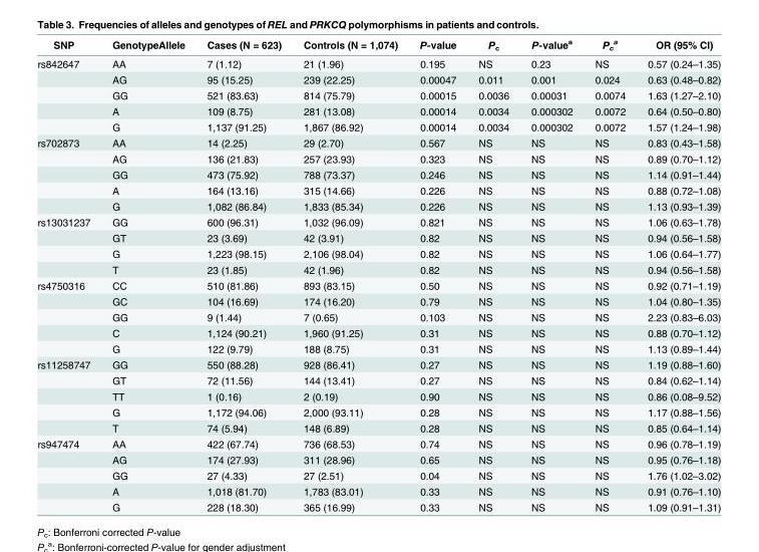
<table><thead><tr><td>SNP</td><td>GenotypeAllele</td><td>Cases (N = 623)</td><td>Controls (N = 1,074)</td><td>P-value</td><td>P<sub>c</sub></td><td>P-value<sup>a</sup></td><td>P<sub>c</sub> <sup>a</sup></td><td>OR (95% CI)</td></tr></thead><tbody><tr><td rowspan="5">rs842647</td><td>AA</td><td>7 (1.12)</td><td>21 (1.96)</td><td>0.195</td><td>NS</td><td>0.23</td><td>NS</td><td>0.57 (0.24–1.35)</td></tr><tr><td>AG</td><td>95 (15.25)</td><td>239 (22.25)</td><td>0.00047</td><td>0.011</td><td>0.001</td><td>0.024</td><td>0.63 (0.48–0.82)</td></tr><tr><td>GG</td><td>521 (83.63)</td><td>814 (75.79)</td><td>0.00015</td><td>0.0036</td><td>0.00031</td><td>0.0074</td><td>1.63 (1.27–2.10)</td></tr><tr><td>A</td><td>109 (8.75)</td><td>281 (13.08)</td><td>0.00014</td><td>0.0034</td><td>0.000302</td><td>0.0072</td><td>0.64 (0.50–0.80)</td></tr><tr><td>G</td><td>1,137 (91.25)</td><td>1,867 (86.92)</td><td>0.00014</td><td>0.0034</td><td>0.000302</td><td>0.0072</td><td>1.57 (1.24–1.98)</td></tr><tr><td rowspan="5">rs702873</td><td>AA</td><td>14 (2.25)</td><td>29 (2.70)</td><td>0.567</td><td>NS</td><td>NS</td><td>NS</td><td>0.83 (0.43–1.58)</td></tr><tr><td>AG</td><td>136 (21.83)</td><td>257 (23.93)</td><td>0.323</td><td>NS</td><td>NS</td><td>NS</td><td>0.89 (0.70–1.12)</td></tr><tr><td>GG</td><td>473 (75.92)</td><td>788 (73.37)</td><td>0.246</td><td>NS</td><td>NS</td><td>NS</td><td>1.14 (0.91–1.44)</td></tr><tr><td>A</td><td>164 (13.16)</td><td>315 (14.66)</td><td>0.226</td><td>NS</td><td>NS</td><td>NS</td><td>0.88 (0.72–1.08)</td></tr><tr><td>G</td><td>1,082 (86.84)</td><td>1,833 (85.34)</td><td>0.226</td><td>NS</td><td>NS</td><td>NS</td><td>1.13 (0.93–1.39)</td></tr><tr><td rowspan="4">rs13031237</td><td>GG</td><td>600 (96.31)</td><td>1,032 (96.09)</td><td>0.821</td><td>NS</td><td>NS</td><td>NS</td><td>1.06 (0.63–1.78)</td></tr><tr><td>GT</td><td>23 (3.69)</td><td>42 (3.91)</td><td>0.82</td><td>NS</td><td>NS</td><td>NS</td><td>0.94 (0.56–1.58)</td></tr><tr><td>G</td><td>1,223 (98.15)</td><td>2,106 (98.04)</td><td>0.82</td><td>NS</td><td>NS</td><td>NS</td><td>1.06 (0.64–1.77)</td></tr><tr><td>T</td><td>23 (1.85)</td><td>42 (1.96)</td><td>0.82</td><td>NS</td><td>NS</td><td>NS</td><td>0.94 (0.56–1.58)</td></tr><tr><td rowspan="5">rs4750316</td><td>CC</td><td>510 (81.86)</td><td>893 (83.15)</td><td>0.50</td><td>NS</td><td>NS</td><td>NS</td><td>0.92 (0.71–1.19)</td></tr><tr><td>GC</td><td>104 (16.69)</td><td>174 (16.20)</td><td>0.79</td><td>NS</td><td>NS</td><td>NS</td><td>1.04 (0.80–1.35)</td></tr><tr><td>GG</td><td>9 (1.44)</td><td>7 (0.65)</td><td>0.103</td><td>NS</td><td>NS</td><td>NS</td><td>2.23 (0.83–6.03)</td></tr><tr><td>C</td><td>1,124 (90.21)</td><td>1,960 (91.25)</td><td>0.31</td><td>NS</td><td>NS</td><td>NS</td><td>0.88 (0.70–1.12)</td></tr><tr><td>G</td><td>122 (9.79)</td><td>188 (8.75)</td><td>0.31</td><td>NS</td><td>NS</td><td>NS</td><td>1.13 (0.89–1.44)</td></tr><tr><td rowspan="5">rs11258747</td><td>GG</td><td>550 (88.28)</td><td>928 (86.41)</td><td>0.27</td><td>NS</td><td>NS</td><td>NS</td><td>1.19 (0.88–1.60)</td></tr><tr><td>GT</td><td>72 (11.56)</td><td>144 (13.41)</td><td>0.27</td><td>NS</td><td>NS</td><td>NS</td><td>0.84 (0.62–1.14)</td></tr><tr><td>TT</td><td>1 (0.16)</td><td>2 (0.19)</td><td>0.90</td><td>NS</td><td>NS</td><td>NS</td><td>0.86 (0.08–9.52)</td></tr><tr><td>G</td><td>1,172 (94.06)</td><td>2,000 (93.11)</td><td>0.28</td><td>NS</td><td>NS</td><td>NS</td><td>1.17 (0.88–1.56)</td></tr><tr><td>T</td><td>74 (5.94)</td><td>148 (6.89)</td><td>0.28</td><td>NS</td><td>NS</td><td>NS</td><td>0.85 (0.64–1.14)</td></tr><tr><td rowspan="5">rs947474</td><td>AA</td><td>422 (67.74)</td><td>736 (68.53)</td><td>0.74</td><td>NS</td><td>NS</td><td>NS</td><td>0.96 (0.78–1.19)</td></tr><tr><td>AG</td><td>174 (27.93)</td><td>311 (28.96)</td><td>0.65</td><td>NS</td><td>NS</td><td>NS</td><td>0.95 (0.76–1.18)</td></tr><tr><td>GG</td><td>27 (4.33)</td><td>27 (2.51)</td><td>0.04</td><td>NS</td><td>NS</td><td>NS</td><td>1.76 (1.02–3.02)</td></tr><tr><td>A</td><td>1,018 (81.70)</td><td>1,783 (83.01)</td><td>0.33</td><td>NS</td><td>NS</td><td>NS</td><td>0.91 (0.76–1.10)</td></tr><tr><td>G</td><td>228 (18.30)</td><td>365 (16.99)</td><td>0.33</td><td>NS</td><td>NS</td><td>NS</td><td>1.09 (0.91–1.31)</td></tr></tbody></table>